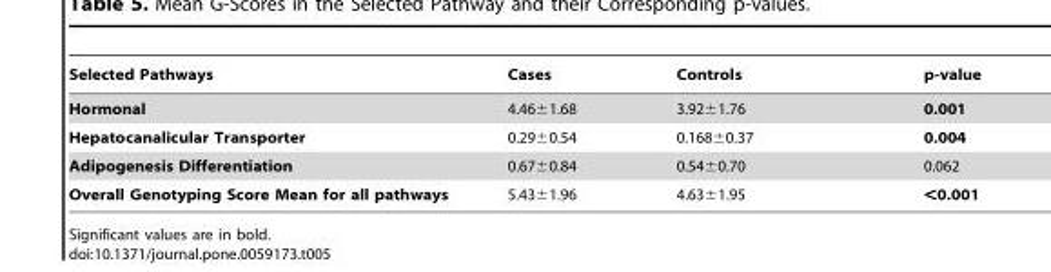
<table><thead><tr><td>Selected Pathways</td><td>Cases</td><td>Controls</td><td>p-value</td></tr></thead><tbody><tr><td>Hormonal</td><td>4.46±1.68</td><td>3.92±1.76</td><td>0.001</td></tr><tr><td>Hepatocanalicular Transporter</td><td>0.29±0.54</td><td>0.168±0.37</td><td>0.004</td></tr><tr><td>Adipogenesis Differentiation</td><td>0.67±0.84</td><td>0.54±0.70</td><td>0.062</td></tr><tr><td>Overall Genotyping Score Mean for all pathways</td><td>5.43±1.96</td><td>4.63±1.95</td><td>&lt;0.001</td></tr></tbody></table>